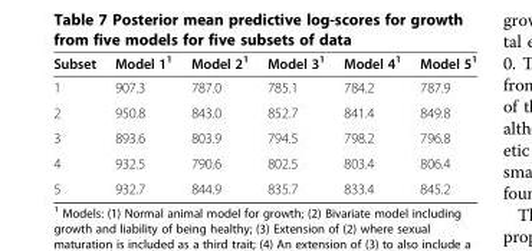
<table><thead><tr><td>Subset</td><td>Model 1<sup>1</sup></td><td>Model 2<sup>1</sup></td><td>Model 3<sup>1</sup></td><td>Model 4<sup>1</sup></td><td>Model 5<sup>1</sup></td></tr></thead><tbody><tr><td>1</td><td>907.3</td><td>787.0</td><td>785.1</td><td>784.2</td><td>787.9</td></tr><tr><td>2</td><td>950.8</td><td>843.0</td><td>852.7</td><td>841.4</td><td>849.8</td></tr><tr><td>3</td><td>893.6</td><td>803.9</td><td>794.5</td><td>798.2</td><td>796.8</td></tr><tr><td>4</td><td>932.5</td><td>790.6</td><td>802.5</td><td>803.4</td><td>806.4</td></tr><tr><td>5</td><td>932.7</td><td>844.9</td><td>835.7</td><td>833.4</td><td>845.2</td></tr></tbody></table>